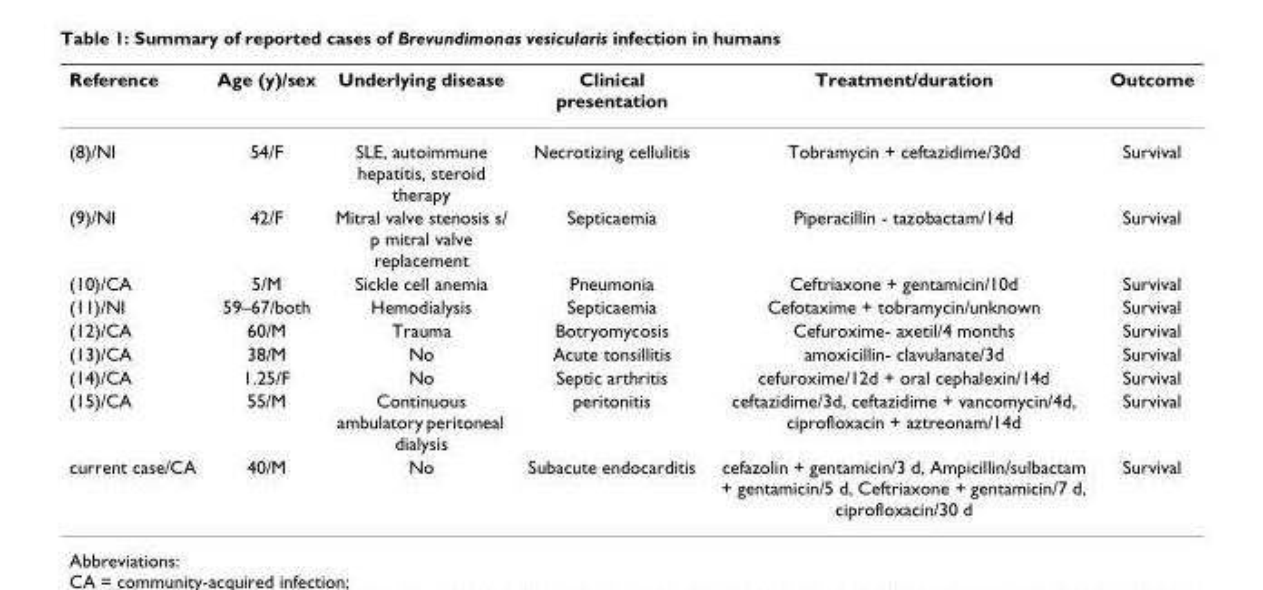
<table><thead><tr><td>Reference</td><td>Age (y)/sex</td><td>Underlying disease</td><td>Clinical presentation</td><td>Treatment/duration</td><td>Outcome</td></tr></thead><tbody><tr><td>(8)/NI</td><td>54/F</td><td>SLE, autoimmune hepatitis, steroid therapy</td><td>Necrotizing cellulitis</td><td>Tobramycin + ceftazidime/30d</td><td>Survival</td></tr><tr><td>(9)/NI</td><td>42/F</td><td>Mitral valve stenosis s/ p mitral valve replacement</td><td>Septicaemia</td><td>Piperacillin - tazobactam/14d</td><td>Survival</td></tr><tr><td>(10)/CA</td><td>5/M</td><td>Sickle cell anemia</td><td>Pneumonia</td><td>Ceftriaxone + gentamicin/10d</td><td>Survival</td></tr><tr><td>(11)/NI</td><td>59–67/both</td><td>Hemodialysis</td><td>Septicaemia</td><td>Cefotaxime + tobramycin/unknown</td><td>Survival</td></tr><tr><td>(12)/CA</td><td>60/M</td><td>Trauma</td><td>Botryomycosis</td><td>Cefuroxime- axetil/4 months</td><td>Survival</td></tr><tr><td>(13)/CA</td><td>38/M</td><td>No</td><td>Acute tonsillitis</td><td>amoxicillin- clavulanate/3d</td><td>Survival</td></tr><tr><td>(14)/CA</td><td>1.25/F</td><td>No</td><td>Septic arthritis</td><td>cefuroxime/12d + oral cephalexin/14d</td><td>Survival</td></tr><tr><td>(15)/CA</td><td>55/M</td><td>Continuous ambulatory peritoneal dialysis</td><td>peritonitis</td><td>ceftazidime/3d, ceftazidime + vancomycin/4d, ciprofloxacin + aztreonam/14d</td><td>Survival</td></tr><tr><td>current case/CA</td><td>40/M</td><td>No</td><td>Subacute endocarditis</td><td>cefazolin + gentamicin/3 d, Ampicillin/sulbactam + gentamicin/5 d, Ceftriaxone + gentamicin/7 d, ciprofloxacin/30 d</td><td>Survival</td></tr></tbody></table>